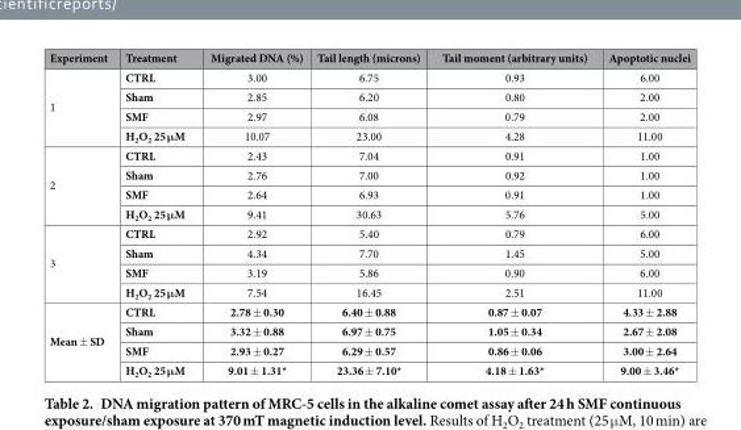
<table><thead><tr><td>Experiment</td><td>Treatment</td><td>Migrated DNA (%)</td><td>Tail length (microns)</td><td>Tail moment (arbitrary units)</td><td>Apoptotic nuclei</td></tr></thead><tbody><tr><td rowspan="4">1</td><td>CTRL</td><td>3.00</td><td>6.75</td><td>0.93</td><td>6.00</td></tr><tr><td>Sham</td><td>2.85</td><td>6.20</td><td>0.80</td><td>2.00</td></tr><tr><td>SMF</td><td>2.97</td><td>6.08</td><td>0.79</td><td>2.00</td></tr><tr><td>H<sub>2</sub>O<sub>2</sub> 25 μM</td><td>10.07</td><td>23.00</td><td>4.28</td><td>11.00</td></tr><tr><td rowspan="4">2</td><td>CTRL</td><td>2.43</td><td>7.04</td><td>0.91</td><td>1.00</td></tr><tr><td>Sham</td><td>2.76</td><td>7.00</td><td>0.92</td><td>1.00</td></tr><tr><td>SMF</td><td>2.64</td><td>6.93</td><td>0.91</td><td>1.00</td></tr><tr><td>H<sub>2</sub>O<sub>2</sub> 25 μM</td><td>9.41</td><td>30.63</td><td>5.76</td><td>5.00</td></tr><tr><td rowspan="4">3</td><td>CTRL</td><td>2.92</td><td>5.40</td><td>0.79</td><td>6.00</td></tr><tr><td>Sham</td><td>4.34</td><td>7.70</td><td>1.45</td><td>5.00</td></tr><tr><td>SMF</td><td>3.19</td><td>5.86</td><td>0.90</td><td>6.00</td></tr><tr><td>H<sub>2</sub>O<sub>2</sub> 25 μM</td><td>7.54</td><td>16.45</td><td>2.51</td><td>11.00</td></tr><tr><td rowspan="4">Mean ± SD</td><td>CTRL</td><td>2.78 ± 0.30</td><td>6.40 ± 0.88</td><td>0.87 ± 0.07</td><td>4.33 ± 2.88</td></tr><tr><td>Sham</td><td>3.32 ± 0.88</td><td>6.97 ± 0.75</td><td>1.05 ± 0.34</td><td>2.67 ± 2.08</td></tr><tr><td>SMF</td><td>2.93 ± 0.27</td><td>6.29 ± 0.57</td><td>0.86 ± 0.06</td><td>3.00 ± 2.64</td></tr><tr><td>H<sub>2</sub>O<sub>2</sub> 25 μM</td><td>9.01 ± 1.31*</td><td>23.36 ± 7.10*</td><td>4.18 ± 1.63*</td><td>9.00 ± 3.46*</td></tr></tbody></table>